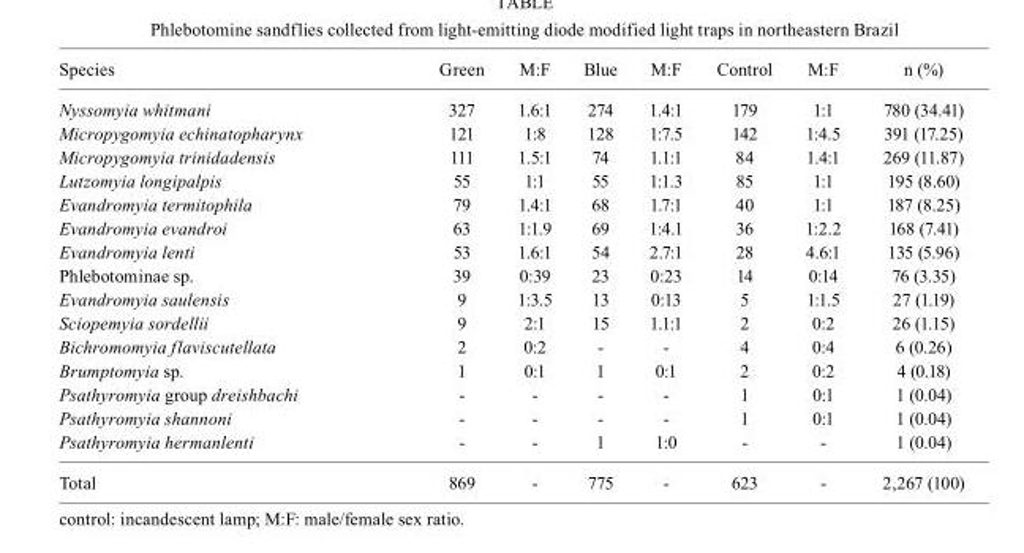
<table><thead><tr><td>Species</td><td>Green</td><td>M:F</td><td>Blue</td><td>M:F</td><td>Control</td><td>M:F</td><td>n (%)</td></tr></thead><tbody><tr><td>Nyssomyia whitmani</td><td>327</td><td>1.6:1</td><td>274</td><td>1.4:1</td><td>179</td><td>1:1</td><td>780 (34.41)</td></tr><tr><td>Micropygomyia echinatopharynx</td><td>121</td><td>1:8</td><td>128</td><td>1:7.5</td><td>142</td><td>1:4.5</td><td>391 (17.25)</td></tr><tr><td>Micropygomyia trinidadensis</td><td>111</td><td>1.5:1</td><td>74</td><td>1.1:1</td><td>84</td><td>1.4:1</td><td>269 (11.87)</td></tr><tr><td>Lutzomyia longipalpis</td><td>55</td><td>1:1</td><td>55</td><td>1:1.3</td><td>85</td><td>1:1</td><td>195 (8.60)</td></tr><tr><td>Evandromyia termitophila</td><td>79</td><td>1.4:1</td><td>68</td><td>1.7:1</td><td>40</td><td>1:1</td><td>187 (8.25)</td></tr><tr><td>Evandromyia evandroi</td><td>63</td><td>1:1.9</td><td>69</td><td>1:4.1</td><td>36</td><td>1:2.2</td><td>168 (7.41)</td></tr><tr><td>Evandromyia lenti</td><td>53</td><td>1.6:1</td><td>54</td><td>2.7:1</td><td>28</td><td>4.6:1</td><td>135 (5.96)</td></tr><tr><td>Phlebotominae sp.</td><td>39</td><td>0:39</td><td>23</td><td>0:23</td><td>14</td><td>0:14</td><td>76 (3.35)</td></tr><tr><td>Evandromyia saulensis</td><td>9</td><td>1:3.5</td><td>13</td><td>0:13</td><td>5</td><td>1:1.5</td><td>27 (1.19)</td></tr><tr><td>Sciopemyia sordellii</td><td>9</td><td>2:1</td><td>15</td><td>1.1:1</td><td>2</td><td>0:2</td><td>26 (1.15)</td></tr><tr><td>Bichromomyia flaviscutellata</td><td>2</td><td>0:2</td><td>-</td><td>-</td><td>4</td><td>0:4</td><td>6 (0.26)</td></tr><tr><td>Brumptomyia sp.</td><td>1</td><td>0:1</td><td>1</td><td>0:1</td><td>2</td><td>0:2</td><td>4 (0.18)</td></tr><tr><td>Psathyromyia group dreishbachi</td><td>-</td><td>-</td><td>-</td><td>-</td><td>1</td><td>0:1</td><td>1 (0.04)</td></tr><tr><td>Psathyromyia shannoni</td><td>-</td><td>-</td><td>-</td><td>-</td><td>1</td><td>0:1</td><td>1 (0.04)</td></tr><tr><td>Psathyromyia hermanlenti</td><td>-</td><td>-</td><td>1</td><td>1:0</td><td>-</td><td>-</td><td>1 (0.04)</td></tr><tr><td>Total</td><td>869</td><td>-</td><td>775</td><td>-</td><td>623</td><td>-</td><td>2,267 (100)</td></tr></tbody></table>